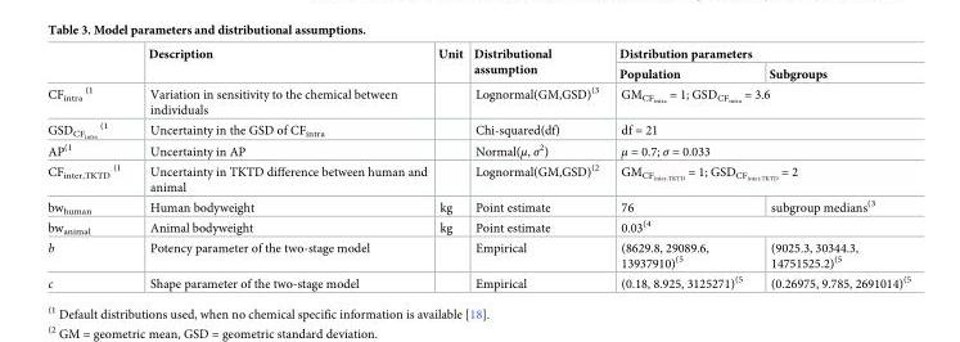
<table><thead><tr><td rowspan="2"></td><td rowspan="2">Description</td><td rowspan="2">Unit</td><td rowspan="2">Distributional assumption</td><td colspan="2">Distribution parameters</td></tr><tr><td>Population</td><td>Subgroups</td></tr></thead><tbody><tr><td>CF<sub>intra</sub> <sup>(1</sup></td><td>Variation in sensitivity to the chemical between individuals</td><td></td><td>Lognormal(GM,GSD)<sup>(3</sup></td><td colspan="2">GMCFintra = 1; GSDCFintra = 3.6</td></tr><tr><td>GSDCFintra (1</td><td>Uncertainty in the GSD of CF<sub>intra</sub></td><td></td><td>Chi-squared(df)</td><td colspan="2">df = 21</td></tr><tr><td>AP<sup>(1</sup></td><td>Uncertainty in AP</td><td></td><td>Normal(μ, σ<sup>2</sup>)</td><td colspan="2">μ = 0.7; σ = 0.033</td></tr><tr><td>CF<sub>inter,TKTD</sub> <sup>(1</sup></td><td>Uncertainty in TKTD difference between human and animal</td><td></td><td>Lognormal(GM,GSD)<sup>(2</sup></td><td colspan="2">GMCFinter,TKTD = 1; GSDCFinter,TKTD = 2</td></tr><tr><td>bw<sub>human</sub></td><td>Human bodyweight</td><td>kg</td><td>Point estimate</td><td>76</td><td>subgroup medians<sup>(3</sup></td></tr><tr><td>bw<sub>animal</sub></td><td>Animal bodyweight</td><td>kg</td><td>Point estimate</td><td colspan="2">0.03<sup>(4</sup></td></tr><tr><td>b</td><td>Potency parameter of the two-stage model</td><td></td><td>Empirical</td><td>(8629.8, 29089.6, 13937910)<sup>(5</sup></td><td>(9025.3, 30344.3, 14751525.2)<sup>(5</sup></td></tr><tr><td>c</td><td>Shape parameter of the two-stage model</td><td></td><td>Empirical</td><td>(0.18, 8.925, 3125271)<sup>(5</sup></td><td>(0.26975, 9.785, 2691014)<sup>(5</sup></td></tr></tbody></table>